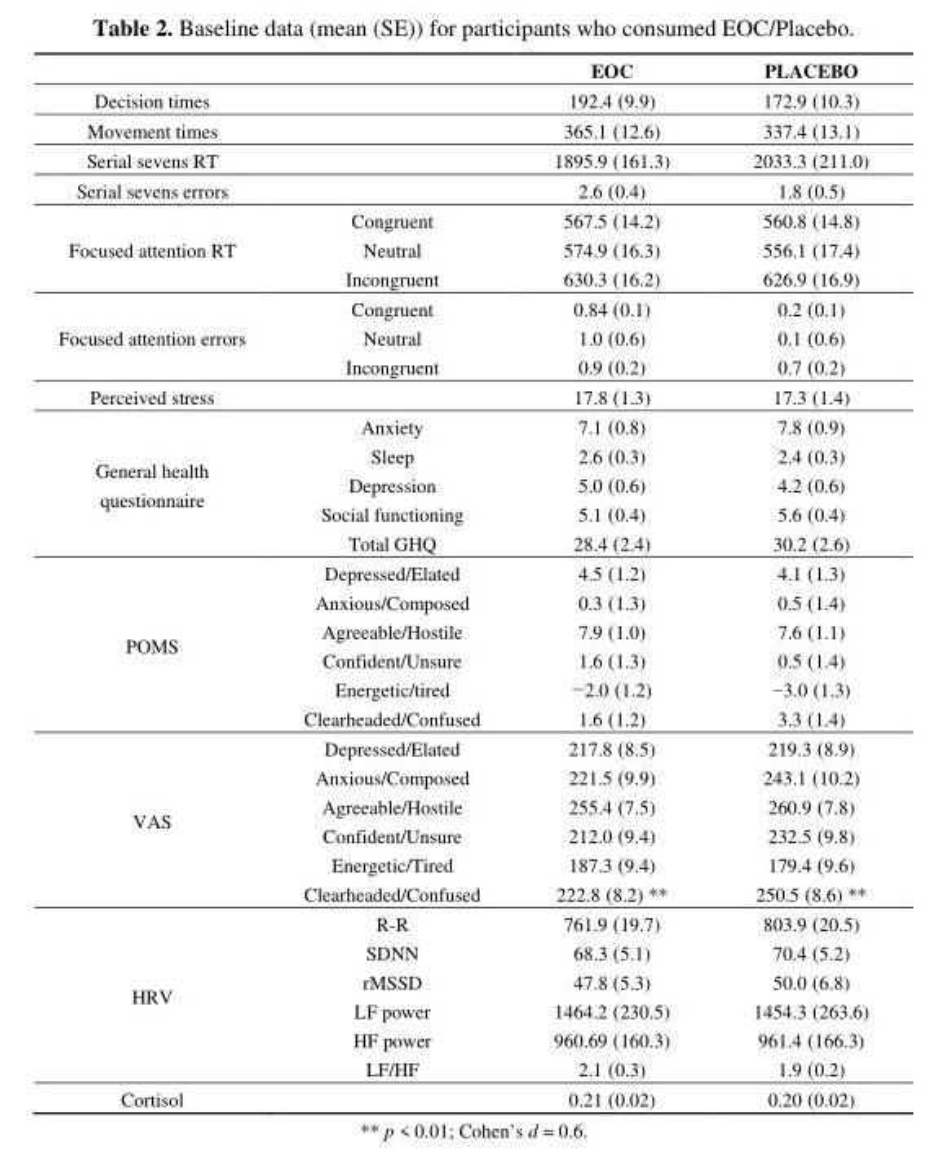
<table><thead><tr><td></td><td></td><td>EOC</td><td>PLACEBO</td></tr></thead><tbody><tr><td>Decision times</td><td></td><td>192.4 (9.9)</td><td>172.9 (10.3)</td></tr><tr><td>Movement times</td><td></td><td>365.1 (12.6)</td><td>337.4 (13.1)</td></tr><tr><td>Serial sevens RT</td><td></td><td>1895.9 (161.3)</td><td>2033.3 (211.0)</td></tr><tr><td>Serial sevens errors</td><td></td><td>2.6 (0.4)</td><td>1.8 (0.5)</td></tr><tr><td rowspan="3">Focused attention RT</td><td>Congruent</td><td>567.5 (14.2)</td><td>560.8 (14.8)</td></tr><tr><td>Neutral</td><td>574.9 (16.3)</td><td>556.1 (17.4)</td></tr><tr><td>Incongruent</td><td>630.3 (16.2)</td><td>626.9 (16.9)</td></tr><tr><td rowspan="3">Focused attention errors</td><td>Congruent</td><td>0.84 (0.1)</td><td>0.2 (0.1)</td></tr><tr><td>Neutral</td><td>1.0 (0.6)</td><td>0.1 (0.6)</td></tr><tr><td>Incongruent</td><td>0.9 (0.2)</td><td>0.7 (0.2)</td></tr><tr><td>Perceived stress</td><td></td><td>17.8 (1.3)</td><td>17.3 (1.4)</td></tr><tr><td rowspan="5">General health questionnaire</td><td>Anxiety</td><td>7.1 (0.8)</td><td>7.8 (0.9)</td></tr><tr><td>Sleep</td><td>2.6 (0.3)</td><td>2.4 (0.3)</td></tr><tr><td>Depression</td><td>5.0 (0.6)</td><td>4.2 (0.6)</td></tr><tr><td>Social functioning</td><td>5.1 (0.4)</td><td>5.6 (0.4)</td></tr><tr><td>Total GHQ</td><td>28.4 (2.4)</td><td>30.2 (2.6)</td></tr><tr><td rowspan="6">POMS</td><td>Depressed/Elated</td><td>4.5 (1.2)</td><td>4.1 (1.3)</td></tr><tr><td>Anxious/Composed</td><td>0.3 (1.3)</td><td>0.5 (1.4)</td></tr><tr><td>Agreeable/Hostile</td><td>7.9 (1.0)</td><td>7.6 (1.1)</td></tr><tr><td>Confident/Unsure</td><td>1.6 (1.3)</td><td>0.5 (1.4)</td></tr><tr><td>Energetic/tired</td><td>−2.0 (1.2)</td><td>−3.0 (1.3)</td></tr><tr><td>Clearheaded/Confused</td><td>1.6 (1.2)</td><td>3.3 (1.4)</td></tr><tr><td rowspan="6">VAS</td><td>Depressed/Elated</td><td>217.8 (8.5)</td><td>219.3 (8.9)</td></tr><tr><td>Anxious/Composed</td><td>221.5 (9.9)</td><td>243.1 (10.2)</td></tr><tr><td>Agreeable/Hostile</td><td>255.4 (7.5)</td><td>260.9 (7.8)</td></tr><tr><td>Confident/Unsure</td><td>212.0 (9.4)</td><td>232.5 (9.8)</td></tr><tr><td>Energetic/Tired</td><td>187.3 (9.4)</td><td>179.4 (9.6)</td></tr><tr><td>Clearheaded/Confused</td><td>222.8 (8.2) **</td><td>250.5 (8.6) **</td></tr><tr><td rowspan="6">HRV</td><td>R-R</td><td>761.9 (19.7)</td><td>803.9 (20.5)</td></tr><tr><td>SDNN</td><td>68.3 (5.1)</td><td>70.4 (5.2)</td></tr><tr><td>rMSSD</td><td>47.8 (5.3)</td><td>50.0 (6.8)</td></tr><tr><td>LF power</td><td>1464.2 (230.5)</td><td>1454.3 (263.6)</td></tr><tr><td>HF power</td><td>960.69 (160.3)</td><td>961.4 (166.3)</td></tr><tr><td>LF/HF</td><td>2.1 (0.3)</td><td>1.9 (0.2)</td></tr><tr><td>Cortisol</td><td></td><td>0.21 (0.02)</td><td>0.20 (0.02)</td></tr></tbody></table>